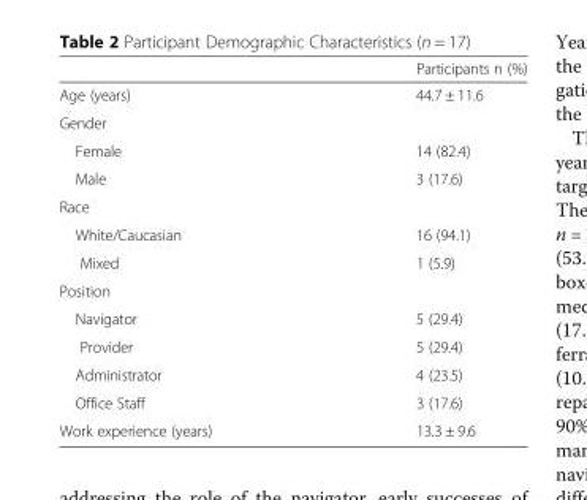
<table><thead><tr><td></td><td>Participants n (%)</td></tr></thead><tbody><tr><td>Age (years)</td><td>44.7 ± 11.6</td></tr><tr><td colspan="2">Gender</td></tr><tr><td>Female</td><td>14 (82.4)</td></tr><tr><td>Male</td><td>3 (17.6)</td></tr><tr><td colspan="2">Race</td></tr><tr><td>White/Caucasian</td><td>16 (94.1)</td></tr><tr><td>Mixed</td><td>1 (5.9)</td></tr><tr><td colspan="2">Position</td></tr><tr><td>Navigator</td><td>5 (29.4)</td></tr><tr><td>Provider</td><td>5 (29.4)</td></tr><tr><td>Administrator</td><td>4 (23.5)</td></tr><tr><td>Office Staff</td><td>3 (17.6)</td></tr><tr><td>Work experience (years)</td><td>13.3 ± 9.6</td></tr></tbody></table>